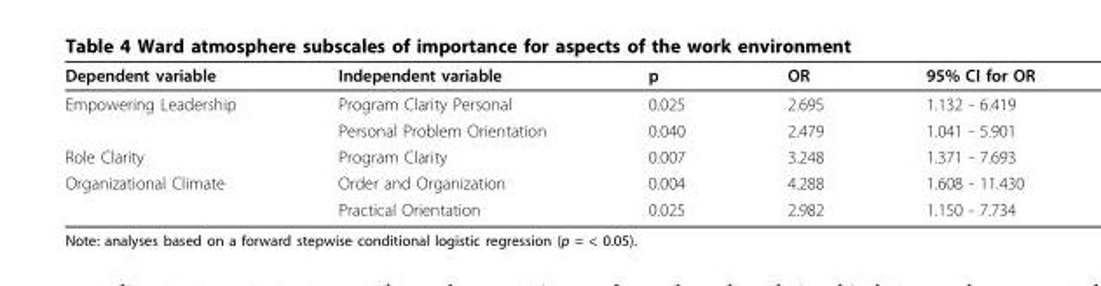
<table><thead><tr><td>Dependent variable</td><td>Independent variable</td><td>p</td><td>OR</td><td>95% CI for OR</td></tr></thead><tbody><tr><td rowspan="2">Empowering Leadership</td><td>Program Clarity Personal</td><td>0.025</td><td>2.695</td><td>1.132 - 6.419</td></tr><tr><td>Personal Problem Orientation</td><td>0.040</td><td>2.479</td><td>1.041 - 5.901</td></tr><tr><td>Role Clarity</td><td>Program Clarity</td><td>0.007</td><td>3.248</td><td>1.371 - 7.693</td></tr><tr><td rowspan="2">Organizational Climate</td><td>Order and Organization</td><td>0.004</td><td>4.288</td><td>1.608 - 11.430</td></tr><tr><td>Practical Orientation</td><td>0.025</td><td>2.982</td><td>1.150 - 7.734</td></tr></tbody></table>